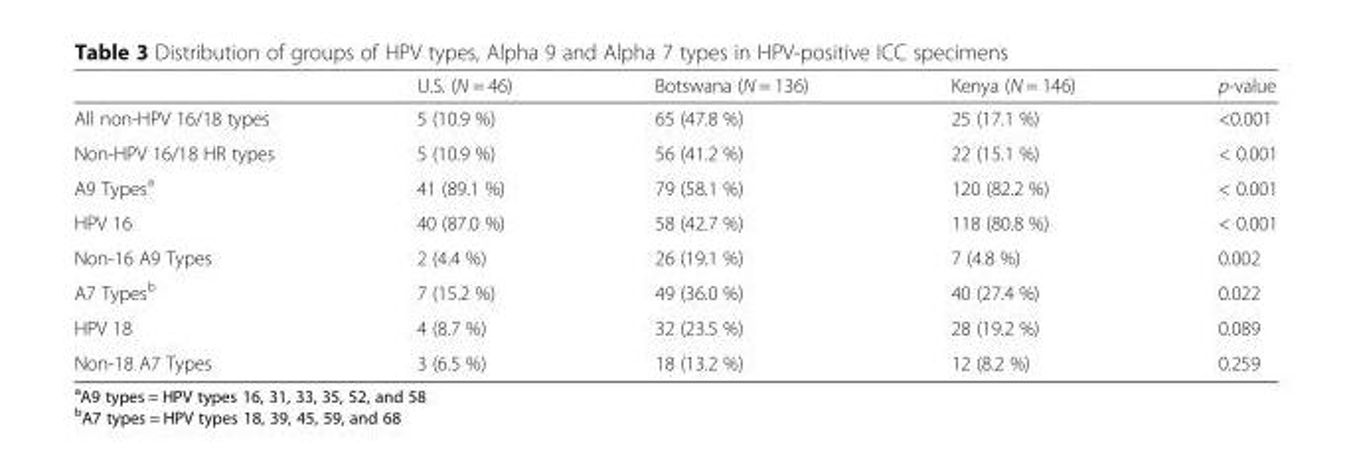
<table><thead><tr><td></td><td>U.S. (N = 46)</td><td>Botswana (N = 136)</td><td>Kenya (N = 146)</td><td>p-value</td></tr></thead><tbody><tr><td>All non-HPV 16/18 types</td><td>5 (10.9 %)</td><td>65 (47.8 %)</td><td>25 (17.1 %)</td><td>&lt;0.001</td></tr><tr><td>Non-HPV 16/18 HR types</td><td>5 (10.9 %)</td><td>56 (41.2 %)</td><td>22 (15.1 %)</td><td>&lt; 0.001</td></tr><tr><td>A9 Types<sup>a</sup></td><td>41 (89.1 %)</td><td>79 (58.1 %)</td><td>120 (82.2 %)</td><td>&lt; 0.001</td></tr><tr><td>HPV 16</td><td>40 (87.0 %)</td><td>58 (42.7 %)</td><td>118 (80.8 %)</td><td>&lt; 0.001</td></tr><tr><td>Non-16 A9 Types</td><td>2 (4.4 %)</td><td>26 (19.1 %)</td><td>7 (4.8 %)</td><td>0.002</td></tr><tr><td>A7 Types<sup>b</sup></td><td>7 (15.2 %)</td><td>49 (36.0 %)</td><td>40 (27.4 %)</td><td>0.022</td></tr><tr><td>HPV 18</td><td>4 (8.7 %)</td><td>32 (23.5 %)</td><td>28 (19.2 %)</td><td>0.089</td></tr><tr><td>Non-18 A7 Types</td><td>3 (6.5 %)</td><td>18 (13.2 %)</td><td>12 (8.2 %)</td><td>0.259</td></tr></tbody></table>